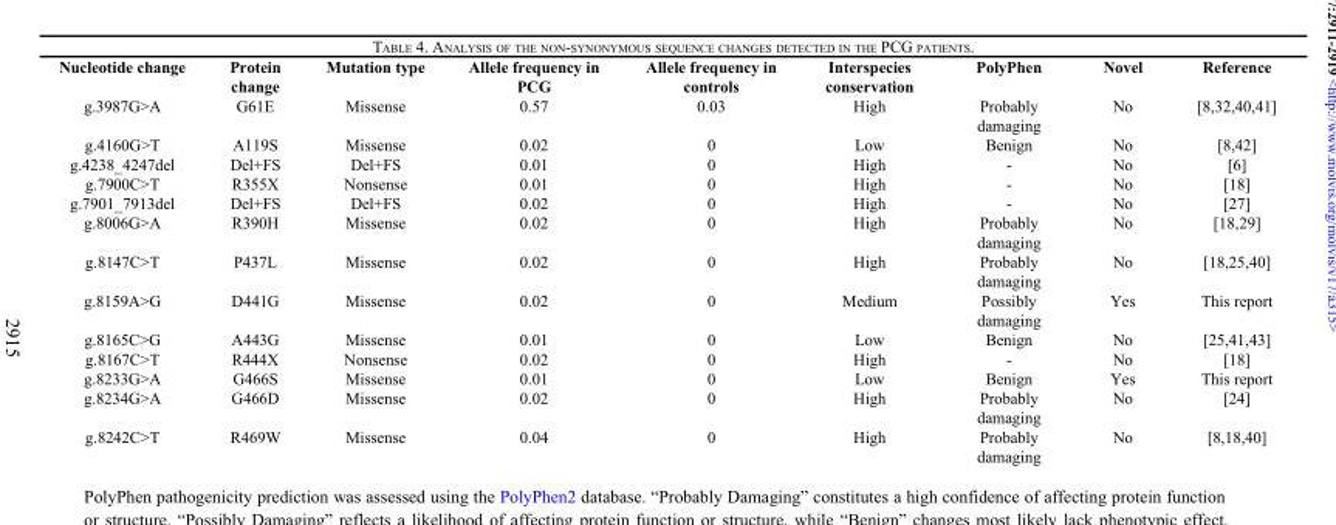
<table><thead><tr><td>Nucleotide change</td><td>Protein change</td><td>Mutation type</td><td>Allele frequency in PCG</td><td>Allele frequency in controls</td><td>Interspecies conservation</td><td>PolyPhen</td><td>Novel</td><td>Reference</td></tr></thead><tbody><tr><td>g.3987G&gt;A</td><td>G61E</td><td>Missense</td><td>0.57</td><td>0.03</td><td>High</td><td>Probably damaging</td><td>No</td><td>[8,32,40,41]</td></tr><tr><td>g.4160G&gt;T</td><td>A119S</td><td>Missense</td><td>0.02</td><td>0</td><td>Low</td><td>Benign</td><td>No</td><td>[8,42]</td></tr><tr><td>g.4238_4247del</td><td>Del+FS</td><td>Del+FS</td><td>0.01</td><td>0</td><td>High</td><td>-</td><td>No</td><td>[6]</td></tr><tr><td>g.7900C&gt;T</td><td>R355X</td><td>Nonsense</td><td>0.01</td><td>0</td><td>High</td><td>-</td><td>No</td><td>[18]</td></tr><tr><td>g.7901_7913del</td><td>Del+FS</td><td>Del+FS</td><td>0.02</td><td>0</td><td>High</td><td>-</td><td>No</td><td>[27]</td></tr><tr><td>g.8006G&gt;A</td><td>R390H</td><td>Missense</td><td>0.02</td><td>0</td><td>High</td><td>Probably damaging</td><td>No</td><td>[18,29]</td></tr><tr><td>g.8147C&gt;T</td><td>P437L</td><td>Missense</td><td>0.02</td><td>0</td><td>High</td><td>Probably damaging</td><td>No</td><td>[18,25,40]</td></tr><tr><td>g.8159A&gt;G</td><td>D441G</td><td>Missense</td><td>0.02</td><td>0</td><td>Medium</td><td>Possibly damaging</td><td>Yes</td><td>This report</td></tr><tr><td>g.8165C&gt;G</td><td>A443G</td><td>Missense</td><td>0.01</td><td>0</td><td>Low</td><td>Benign</td><td>No</td><td>[25,41,43]</td></tr><tr><td>g.8167C&gt;T</td><td>R444X</td><td>Nonsense</td><td>0.02</td><td>0</td><td>High</td><td>-</td><td>No</td><td>[18]</td></tr><tr><td>g.8233G&gt;A</td><td>G466S</td><td>Missense</td><td>0.01</td><td>0</td><td>Low</td><td>Benign</td><td>Yes</td><td>This report</td></tr><tr><td>g.8234G&gt;A</td><td>G466D</td><td>Missense</td><td>0.02</td><td>0</td><td>High</td><td>Probably damaging</td><td>No</td><td>[24]</td></tr><tr><td>g.8242C&gt;T</td><td>R469W</td><td>Missense</td><td>0.04</td><td>0</td><td>High</td><td>Probably damaging</td><td>No</td><td>[8,18,40]</td></tr></tbody></table>